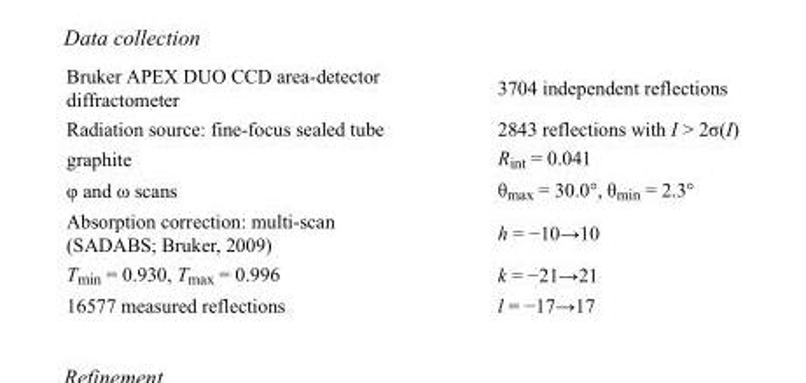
<table><tbody><tr><td>Bruker APEX DUO CCD area-detector diffractometer</td><td>3704 independent reflections</td></tr><tr><td>Radiation source: fine-focus sealed tube</td><td>2843 reflections with I &gt; 2σ(I)</td></tr><tr><td>graphite</td><td>R<sub>int</sub> = 0.041</td></tr><tr><td>φ and ω scans</td><td>θ<sub>max</sub> = 30.0°, θ<sub>min</sub> = 2.3°</td></tr><tr><td>Absorption correction: multi-scan (SADABS; Bruker, 2009)</td><td>h = −10→10</td></tr><tr><td>T<sub>min</sub> = 0.930, T<sub>max</sub> = 0.996</td><td>k = −21→21</td></tr><tr><td>16577 measured reflections</td><td>l = −17→17</td></tr></tbody></table>